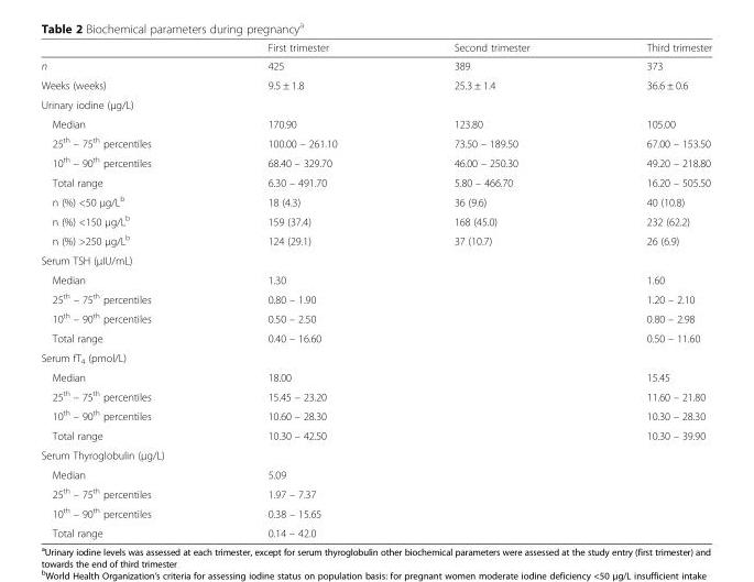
<table><thead><tr><td></td><td>First trimester</td><td>Second trimester</td><td>Third trimester</td></tr></thead><tbody><tr><td>n</td><td>425</td><td>389</td><td>373</td></tr><tr><td>Weeks (weeks)</td><td>9.5 ± 1.8</td><td>25.3 ± 1.4</td><td>36.6 ± 0.6</td></tr><tr><td colspan="4">Urinary iodine (μg/L)</td></tr><tr><td>Median</td><td>170.90</td><td>123.80</td><td>105.00</td></tr><tr><td>25<sup>th</sup> – 75<sup>th</sup> percentiles</td><td>100.00 – 261.10</td><td>73.50 – 189.50</td><td>67.00 – 153.50</td></tr><tr><td>10<sup>th</sup> – 90<sup>th</sup> percentiles</td><td>68.40 – 329.70</td><td>46.00 – 250.30</td><td>49.20 – 218.80</td></tr><tr><td>Total range</td><td>6.30 – 491.70</td><td>5.80 – 466.70</td><td>16.20 – 505.50</td></tr><tr><td>n (%) &lt;50 μg/L<sup>b</sup></td><td>18 (4.3)</td><td>36 (9.6)</td><td>40 (10.8)</td></tr><tr><td>n (%) &lt;150 μg/L<sup>b</sup></td><td>159 (37.4)</td><td>168 (45.0)</td><td>232 (62.2)</td></tr><tr><td>n (%) &gt;250 μg/L<sup>b</sup></td><td>124 (29.1)</td><td>37 (10.7)</td><td>26 (6.9)</td></tr><tr><td colspan="4">Serum TSH (µIU/mL)</td></tr><tr><td>Median</td><td>1.30</td><td></td><td>1.60</td></tr><tr><td>25<sup>th</sup> – 75<sup>th</sup> percentiles</td><td>0.80 – 1.90</td><td></td><td>1.20 – 2.10</td></tr><tr><td>10<sup>th</sup> – 90<sup>th</sup> percentiles</td><td>0.50 – 2.50</td><td></td><td>0.80 – 2.98</td></tr><tr><td>Total range</td><td>0.40 – 16.60</td><td></td><td>0.50 – 11.60</td></tr><tr><td colspan="4">Serum fT<sub>4</sub> (pmol/L)</td></tr><tr><td>Median</td><td>18.00</td><td></td><td>15.45</td></tr><tr><td>25<sup>th</sup> – 75<sup>th</sup> percentiles</td><td>15.45 – 23.20</td><td></td><td>11.60 – 21.80</td></tr><tr><td>10<sup>th</sup> – 90<sup>th</sup> percentiles</td><td>10.60 – 28.30</td><td></td><td>10.30 – 28.30</td></tr><tr><td>Total range</td><td>10.30 – 42.50</td><td></td><td>10.30 – 39.90</td></tr><tr><td colspan="4">Serum Thyroglobulin (μg/L)</td></tr><tr><td>Median</td><td>5.09</td><td></td><td></td></tr><tr><td>25<sup>th</sup> – 75<sup>th</sup> percentiles</td><td>1.97 – 7.37</td><td></td><td></td></tr><tr><td>10<sup>th</sup> – 90<sup>th</sup> percentiles</td><td>0.38 – 15.65</td><td></td><td></td></tr><tr><td>Total range</td><td>0.14 – 42.0</td><td></td><td></td></tr></tbody></table>